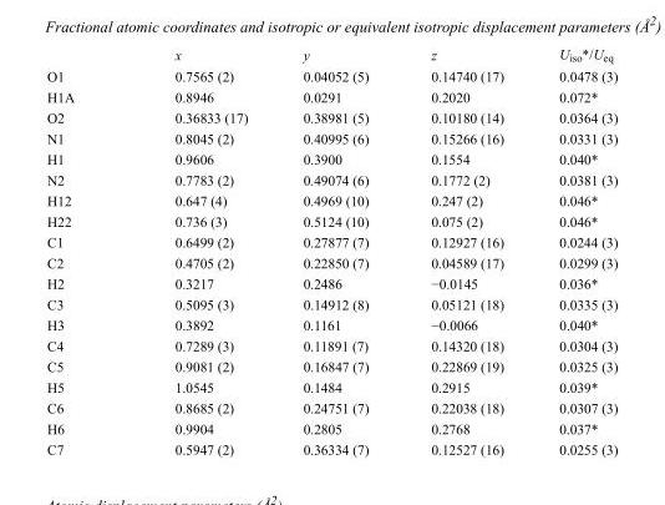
<table><thead><tr><td></td><td>x</td><td>y</td><td>z</td><td>U<sub>iso</sub>*/U<sub>eq</sub></td></tr></thead><tbody><tr><td>O1</td><td>0.7565 (2)</td><td>0.04052 (5)</td><td>0.14740 (17)</td><td>0.0478 (3)</td></tr><tr><td>H1A</td><td>0.8946</td><td>0.0291</td><td>0.2020</td><td>0.072*</td></tr><tr><td>O2</td><td>0.36833 (17)</td><td>0.38981 (5)</td><td>0.10180 (14)</td><td>0.0364 (3)</td></tr><tr><td>N1</td><td>0.8045 (2)</td><td>0.40995 (6)</td><td>0.15266 (16)</td><td>0.0331 (3)</td></tr><tr><td>H1</td><td>0.9606</td><td>0.3900</td><td>0.1554</td><td>0.040*</td></tr><tr><td>N2</td><td>0.7783 (2)</td><td>0.49074 (6)</td><td>0.1772 (2)</td><td>0.0381 (3)</td></tr><tr><td>H12</td><td>0.647 (4)</td><td>0.4969 (10)</td><td>0.247 (2)</td><td>0.046*</td></tr><tr><td>H22</td><td>0.736 (3)</td><td>0.5124 (10)</td><td>0.075 (2)</td><td>0.046*</td></tr><tr><td>C1</td><td>0.6499 (2)</td><td>0.27877 (7)</td><td>0.12927 (16)</td><td>0.0244 (3)</td></tr><tr><td>C2</td><td>0.4705 (2)</td><td>0.22850 (7)</td><td>0.04589 (17)</td><td>0.0299 (3)</td></tr><tr><td>H2</td><td>0.3217</td><td>0.2486</td><td>−0.0145</td><td>0.036*</td></tr><tr><td>C3</td><td>0.5095 (3)</td><td>0.14912 (8)</td><td>0.05121 (18)</td><td>0.0335 (3)</td></tr><tr><td>H3</td><td>0.3892</td><td>0.1161</td><td>−0.0066</td><td>0.040*</td></tr><tr><td>C4</td><td>0.7289 (3)</td><td>0.11891 (7)</td><td>0.14320 (18)</td><td>0.0304 (3)</td></tr><tr><td>C5</td><td>0.9081 (2)</td><td>0.16847 (7)</td><td>0.22869 (19)</td><td>0.0325 (3)</td></tr><tr><td>H5</td><td>1.0545</td><td>0.1484</td><td>0.2915</td><td>0.039*</td></tr><tr><td>C6</td><td>0.8685 (2)</td><td>0.24751 (7)</td><td>0.22038 (18)</td><td>0.0307 (3)</td></tr><tr><td>H6</td><td>0.9904</td><td>0.2805</td><td>0.2768</td><td>0.037*</td></tr><tr><td>C7</td><td>0.5947 (2)</td><td>0.36334 (7)</td><td>0.12527 (16)</td><td>0.0255 (3)</td></tr></tbody></table>